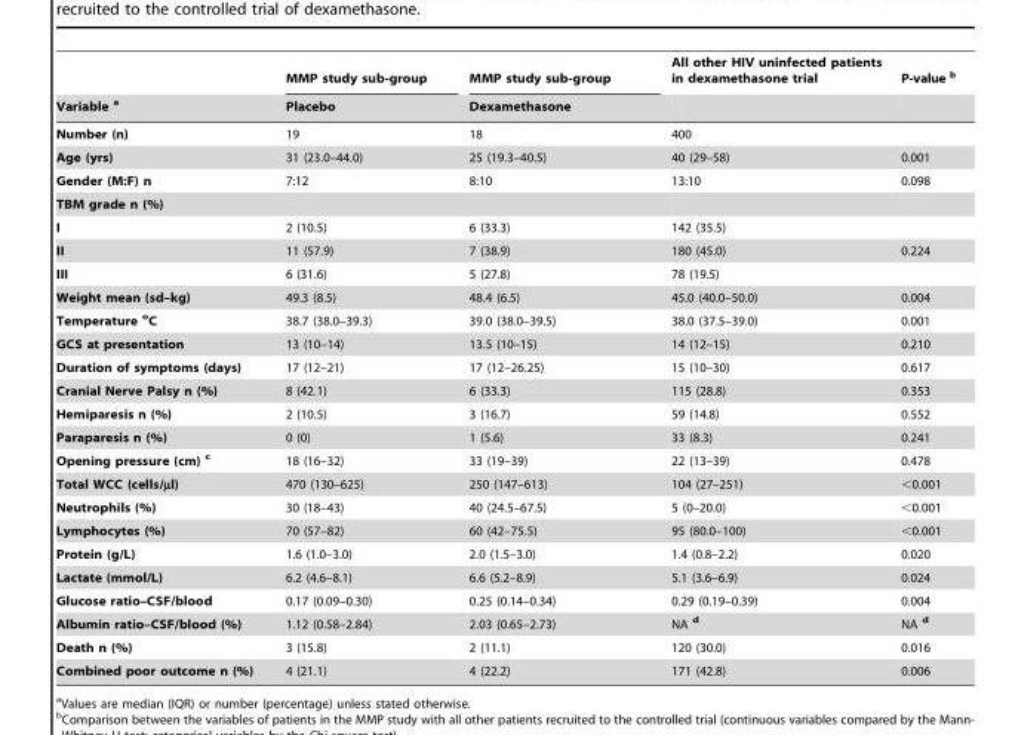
<table><thead><tr><td rowspan="2">Variable a</td><td rowspan="2">MMP study sub-group Placebo</td><td rowspan="2">MMP study sub-group Dexamethasone</td><td rowspan="2">All other HIV uninfected patients in dexamethasone trial</td><td rowspan="2">P-value b</td></tr><tr></tr></thead><tbody><tr><td>Number (n)</td><td>19</td><td>18</td><td>400</td><td></td></tr><tr><td>Age (yrs)</td><td>31 (23.0–44.0)</td><td>25 (19.3–40.5)</td><td>40 (29–58)</td><td>0.001</td></tr><tr><td>Gender (M:F) n</td><td>7:12</td><td>8:10</td><td>13:10</td><td>0.098</td></tr><tr><td colspan="5">TBM grade n (%)</td></tr><tr><td>I</td><td>2 (10.5)</td><td>6 (33.3)</td><td>142 (35.5)</td><td></td></tr><tr><td>II</td><td>11 (57.9)</td><td>7 (38.9)</td><td>180 (45.0)</td><td>0.224</td></tr><tr><td>III</td><td>6 (31.6)</td><td>5 (27.8)</td><td>78 (19.5)</td><td></td></tr><tr><td>Weight mean (sd–kg)</td><td>49.3 (8.5)</td><td>48.4 (6.5)</td><td>45.0 (40.0–50.0)</td><td>0.004</td></tr><tr><td>Temperature <sup>o</sup>C</td><td>38.7 (38.0–39.3)</td><td>39.0 (38.0–39.5)</td><td>38.0 (37.5–39.0)</td><td>0.001</td></tr><tr><td>GCS at presentation</td><td>13 (10–14)</td><td>13.5 (10–15)</td><td>14 (12–15)</td><td>0.210</td></tr><tr><td>Duration of symptoms (days)</td><td>17 (12–21)</td><td>17 (12–26.25)</td><td>15 (10–30)</td><td>0.617</td></tr><tr><td>Cranial Nerve Palsy n (%)</td><td>8 (42.1)</td><td>6 (33.3)</td><td>115 (28.8)</td><td>0.353</td></tr><tr><td>Hemiparesis n (%)</td><td>2 (10.5)</td><td>3 (16.7)</td><td>59 (14.8)</td><td>0.552</td></tr><tr><td>Paraparesis n (%)</td><td>0 (0)</td><td>1 (5.6)</td><td>33 (8.3)</td><td>0.241</td></tr><tr><td>Opening pressure (cm) c</td><td>18 (16–32)</td><td>33 (19–39)</td><td>22 (13–39)</td><td>0.478</td></tr><tr><td>Total WCC (cells/µl)</td><td>470 (130–625)</td><td>250 (147–613)</td><td>104 (27–251)</td><td>&lt;0.001</td></tr><tr><td>Neutrophils (%)</td><td>30 (18–43)</td><td>40 (24.5–67.5)</td><td>5 (0–20.0)</td><td>&lt;0.001</td></tr><tr><td>Lymphocytes (%)</td><td>70 (57–82)</td><td>60 (42–75.5)</td><td>95 (80.0–100)</td><td>&lt;0.001</td></tr><tr><td>Protein (g/L)</td><td>1.6 (1.0–3.0)</td><td>2.0 (1.5–3.0)</td><td>1.4 (0.8–2.2)</td><td>0.020</td></tr><tr><td>Lactate (mmol/L)</td><td>6.2 (4.6–8.1)</td><td>6.6 (5.2–8.9)</td><td>5.1 (3.6–6.9)</td><td>0.024</td></tr><tr><td>Glucose ratio–CSF/blood</td><td>0.17 (0.09–0.30)</td><td>0.25 (0.14–0.34)</td><td>0.29 (0.19–0.39)</td><td>0.004</td></tr><tr><td>Albumin ratio–CSF/blood (%)</td><td>1.12 (0.58–2.84)</td><td>2.03 (0.65–2.73)</td><td>NA d</td><td>NA d</td></tr><tr><td>Death n (%)</td><td>3 (15.8)</td><td>2 (11.1)</td><td>120 (30.0)</td><td>0.016</td></tr><tr><td>Combined poor outcome n (%)</td><td>4 (21.1)</td><td>4 (22.2)</td><td>171 (42.8)</td><td>0.006</td></tr></tbody></table>